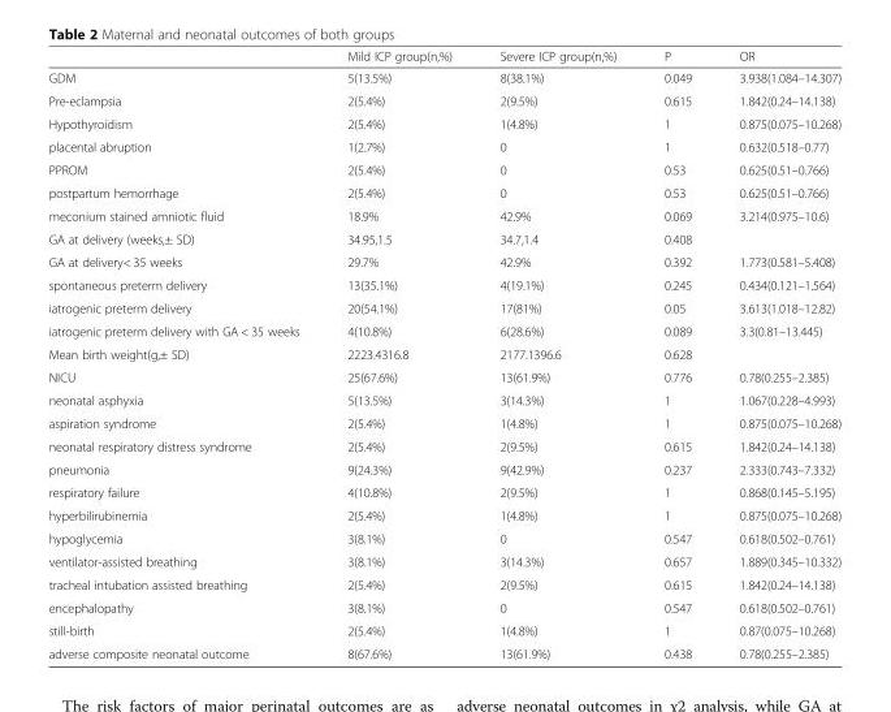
<table><thead><tr><td></td><td>Mild ICP group(n,%)</td><td>Severe ICP group(n,%)</td><td>P</td><td>OR</td></tr></thead><tbody><tr><td>GDM</td><td>5(13.5%)</td><td>8(38.1%)</td><td>0.049</td><td>3.938(1.084–14.307)</td></tr><tr><td>Pre-eclampsia</td><td>2(5.4%)</td><td>2(9.5%)</td><td>0.615</td><td>1.842(0.24–14.138)</td></tr><tr><td>Hypothyroidism</td><td>2(5.4%)</td><td>1(4.8%)</td><td>1</td><td>0.875(0.075–10.268)</td></tr><tr><td>placental abruption</td><td>1(2.7%)</td><td>0</td><td>1</td><td>0.632(0.518–0.77)</td></tr><tr><td>PPROM</td><td>2(5.4%)</td><td>0</td><td>0.53</td><td>0.625(0.51–0.766)</td></tr><tr><td>postpartum hemorrhage</td><td>2(5.4%)</td><td>0</td><td>0.53</td><td>0.625(0.51–0.766)</td></tr><tr><td>meconium stained amniotic fluid</td><td>18.9%</td><td>42.9%</td><td>0.069</td><td>3.214(0.975–10.6)</td></tr><tr><td>GA at delivery (weeks,± SD)</td><td>34.95,1.5</td><td>34.7,1.4</td><td>0.408</td><td></td></tr><tr><td>GA at delivery&lt; 35 weeks</td><td>29.7%</td><td>42.9%</td><td>0.392</td><td>1.773(0.581–5.408)</td></tr><tr><td>spontaneous preterm delivery</td><td>13(35.1%)</td><td>4(19.1%)</td><td>0.245</td><td>0.434(0.121–1.564)</td></tr><tr><td>iatrogenic preterm delivery</td><td>20(54.1%)</td><td>17(81%)</td><td>0.05</td><td>3.613(1.018–12.82)</td></tr><tr><td>iatrogenic preterm delivery with GA &lt; 35 weeks</td><td>4(10.8%)</td><td>6(28.6%)</td><td>0.089</td><td>3.3(0.81–13.445)</td></tr><tr><td>Mean birth weight(g,± SD)</td><td>2223.4316.8</td><td>2177.1396.6</td><td>0.628</td><td></td></tr><tr><td>NICU</td><td>25(67.6%)</td><td>13(61.9%)</td><td>0.776</td><td>0.78(0.255–2.385)</td></tr><tr><td>neonatal asphyxia</td><td>5(13.5%)</td><td>3(14.3%)</td><td>1</td><td>1.067(0.228–4.993)</td></tr><tr><td>aspiration syndrome</td><td>2(5.4%)</td><td>1(4.8%)</td><td>1</td><td>0.875(0.075–10.268)</td></tr><tr><td>neonatal respiratory distress syndrome</td><td>2(5.4%)</td><td>2(9.5%)</td><td>0.615</td><td>1.842(0.24–14.138)</td></tr><tr><td>pneumonia</td><td>9(24.3%)</td><td>9(42.9%)</td><td>0.237</td><td>2.333(0.743–7.332)</td></tr><tr><td>respiratory failure</td><td>4(10.8%)</td><td>2(9.5%)</td><td>1</td><td>0.868(0.145–5.195)</td></tr><tr><td>hyperbilirubinemia</td><td>2(5.4%)</td><td>1(4.8%)</td><td>1</td><td>0.875(0.075–10.268)</td></tr><tr><td>hypoglycemia</td><td>3(8.1%)</td><td>0</td><td>0.547</td><td>0.618(0.502–0.761)</td></tr><tr><td>ventilator-assisted breathing</td><td>3(8.1%)</td><td>3(14.3%)</td><td>0.657</td><td>1.889(0.345–10.332)</td></tr><tr><td>tracheal intubation assisted breathing</td><td>2(5.4%)</td><td>2(9.5%)</td><td>0.615</td><td>1.842(0.24–14.138)</td></tr><tr><td>encephalopathy</td><td>3(8.1%)</td><td>0</td><td>0.547</td><td>0.618(0.502–0.761)</td></tr><tr><td>still-birth</td><td>2(5.4%)</td><td>1(4.8%)</td><td>1</td><td>0.87(0.075–10.268)</td></tr><tr><td>adverse composite neonatal outcome</td><td>8(67.6%)</td><td>13(61.9%)</td><td>0.438</td><td>0.78(0.255–2.385)</td></tr></tbody></table>